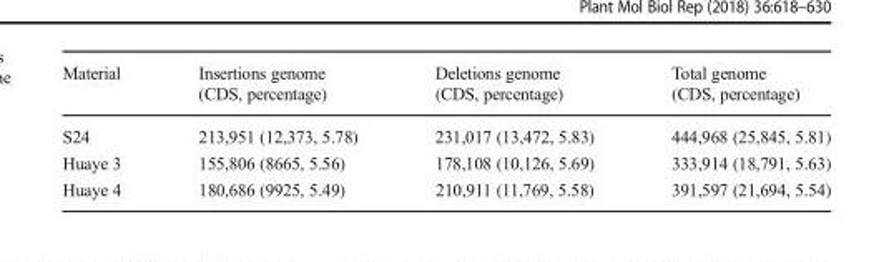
<table><thead><tr><td>Material</td><td>Insertions genome (CDS, percentage)</td><td>Deletions genome (CDS, percentage)</td><td>Total genome (CDS, percentage)</td></tr></thead><tbody><tr><td>S24</td><td>213,951 (12,373, 5.78)</td><td>231,017 (13,472, 5.83)</td><td>444,968 (25,845, 5.81)</td></tr><tr><td>Huaye 3</td><td>155,806 (8665, 5.56)</td><td>178,108 (10,126, 5.69)</td><td>333,914 (18,791, 5.63)</td></tr><tr><td>Huaye 4</td><td>180,686 (9925, 5.49)</td><td>210,911 (11,769, 5.58)</td><td>391,597 (21,694, 5.54)</td></tr></tbody></table>